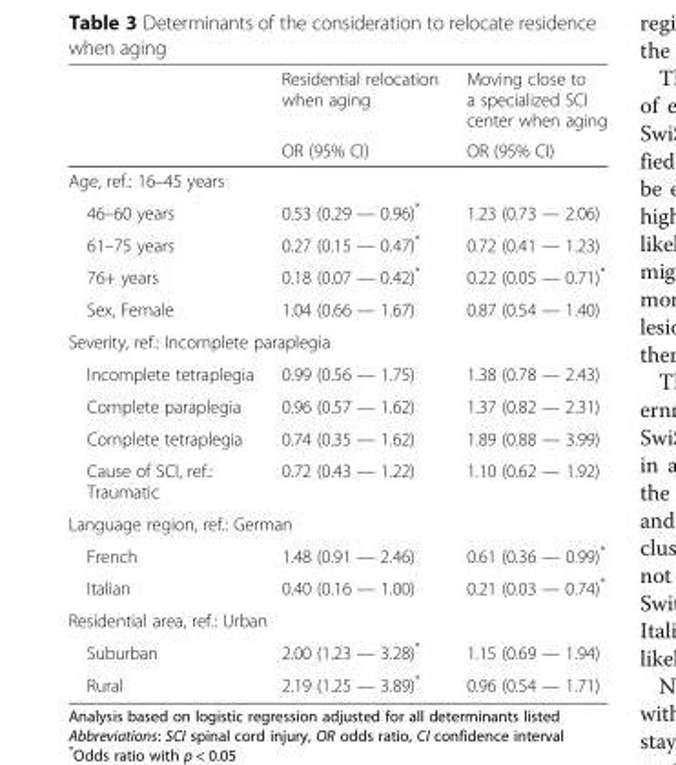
<table><thead><tr><td rowspan="2"></td><td rowspan="2">Residential relocation when aging OR (95% CI)</td><td rowspan="2">Moving close to a specialized SCI center when aging OR (95% CI)</td></tr><tr></tr></thead><tbody><tr><td colspan="3">Age, ref.: 16–45 years</td></tr><tr><td>46–60 years</td><td>0.53 (0.29 — 0.96)*</td><td>1.23 (0.73 — 2.06)</td></tr><tr><td>61–75 years</td><td>0.27 (0.15 — 0.47)*</td><td>0.72 (0.41 — 1.23)</td></tr><tr><td>76+ years</td><td>0.18 (0.07 — 0.42)*</td><td>0.22 (0.05 — 0.71)*</td></tr><tr><td>Sex, Female</td><td>1.04 (0.66 — 1.67)</td><td>0.87 (0.54 — 1.40)</td></tr><tr><td colspan="3">Severity, ref.: Incomplete paraplegia</td></tr><tr><td>Incomplete tetraplegia</td><td>0.99 (0.56 — 1.75)</td><td>1.38 (0.78 — 2.43)</td></tr><tr><td>Complete paraplegia</td><td>0.96 (0.57 — 1.62)</td><td>1.37 (0.82 — 2.31)</td></tr><tr><td>Complete tetraplegia</td><td>0.74 (0.35 — 1.62)</td><td>1.89 (0.88 — 3.99)</td></tr><tr><td>Cause of SCI, ref.: Traumatic</td><td>0.72 (0.43 — 1.22)</td><td>1.10 (0.62 — 1.92)</td></tr><tr><td colspan="3">Language region, ref.: German</td></tr><tr><td>French</td><td>1.48 (0.91 — 2.46)</td><td>0.61 (0.36 — 0.99)*</td></tr><tr><td>Italian</td><td>0.40 (0.16 — 1.00)</td><td>0.21 (0.03 — 0.74)*</td></tr><tr><td colspan="3">Residential area, ref.: Urban</td></tr><tr><td>Suburban</td><td>2.00 (1.23 — 3.28)*</td><td>1.15 (0.69 — 1.94)</td></tr><tr><td>Rural</td><td>2.19 (1.25 — 3.89)*</td><td>0.96 (0.54 — 1.71)</td></tr></tbody></table>